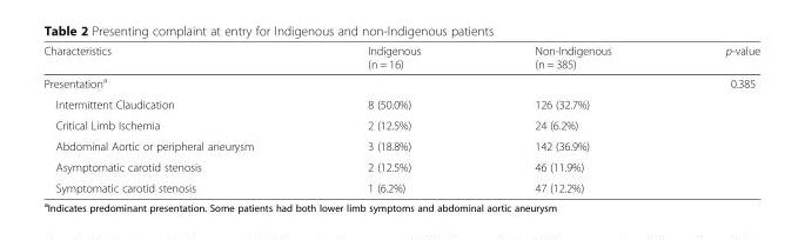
<table><thead><tr><td>Characteristics</td><td>Indigenous (n = 16)</td><td>Non-Indigenous (n = 385)</td><td>p-value</td></tr></thead><tbody><tr><td>Presentation<sup>a</sup></td><td></td><td></td><td>0.385</td></tr><tr><td>Intermittent Claudication</td><td>8 (50.0%)</td><td>126 (32.7%)</td><td></td></tr><tr><td>Critical Limb Ischemia</td><td>2 (12.5%)</td><td>24 (6.2%)</td><td></td></tr><tr><td>Abdominal Aortic or peripheral aneurysm</td><td>3 (18.8%)</td><td>142 (36.9%)</td><td></td></tr><tr><td>Asymptomatic carotid stenosis</td><td>2 (12.5%)</td><td>46 (11.9%)</td><td></td></tr><tr><td>Symptomatic carotid stenosis</td><td>1 (6.2%)</td><td>47 (12.2%)</td><td></td></tr></tbody></table>